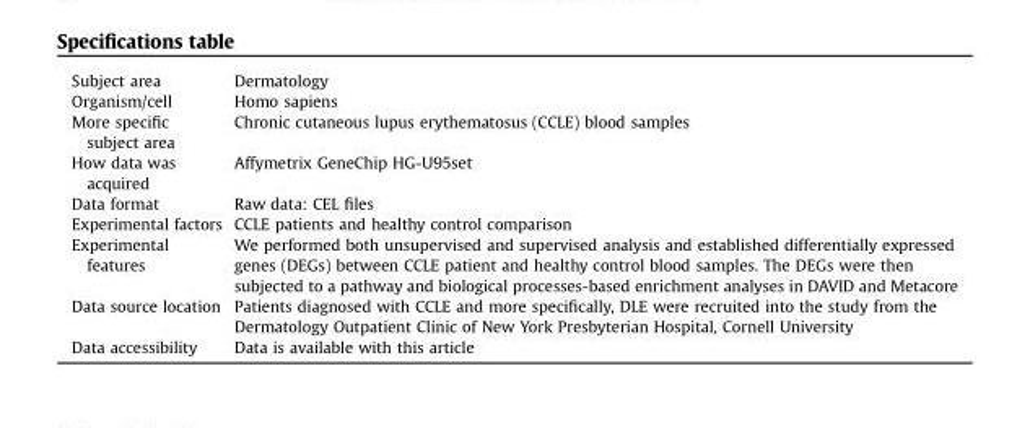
<table><tbody><tr><td>Subject area</td><td>Dermatology</td></tr><tr><td>Organism/cell</td><td>Homo sapiens</td></tr><tr><td>More specific subject area</td><td>Chronic cutaneous lupus erythematosus (CCLE) blood samples</td></tr><tr><td>How data was acquired</td><td>Affymetrix GeneChip HG-U95set</td></tr><tr><td>Data format</td><td>Raw data: CEL files</td></tr><tr><td>Experimental factors</td><td>CCLE patients and healthy control comparison</td></tr><tr><td>Experimental features</td><td>We performed both unsupervised and supervised analysis and established differentially expressed genes (DEGs) between CCLE patient and healthy control blood samples. The DEGs were then subjected to a pathway and biological processes-based enrichment analyses in DAVID and Metacore</td></tr><tr><td>Data source location</td><td>Patients diagnosed with CCLE and more specifically, DLE were recruited into the study from the Dermatology Outpatient Clinic of New York Presbyterian Hospital, Cornell University</td></tr><tr><td>Data accessibility</td><td>Data is available with this article</td></tr></tbody></table>